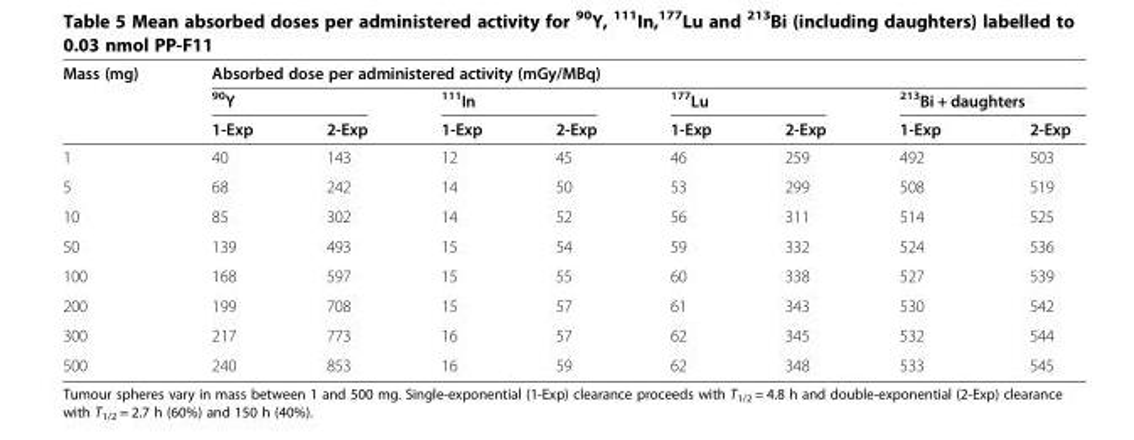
<table><thead><tr><td rowspan="3">Mass (mg)</td><td colspan="8">Absorbed dose per administered activity (mGy/MBq)</td></tr><tr><td colspan="2"><sup>90</sup>Y</td><td colspan="2"><sup>111</sup>In</td><td colspan="2"><sup>177</sup>Lu</td><td colspan="2"><sup>213</sup>Bi + daughters</td></tr><tr><td>1-Exp</td><td>2-Exp</td><td>1-Exp</td><td>2-Exp</td><td>1-Exp</td><td>2-Exp</td><td>1-Exp</td><td>2-Exp</td></tr></thead><tbody><tr><td>1</td><td>40</td><td>143</td><td>12</td><td>45</td><td>46</td><td>259</td><td>492</td><td>503</td></tr><tr><td>5</td><td>68</td><td>242</td><td>14</td><td>50</td><td>53</td><td>299</td><td>508</td><td>519</td></tr><tr><td>10</td><td>85</td><td>302</td><td>14</td><td>52</td><td>56</td><td>311</td><td>514</td><td>525</td></tr><tr><td>50</td><td>139</td><td>493</td><td>15</td><td>54</td><td>59</td><td>332</td><td>524</td><td>536</td></tr><tr><td>100</td><td>168</td><td>597</td><td>15</td><td>55</td><td>60</td><td>338</td><td>527</td><td>539</td></tr><tr><td>200</td><td>199</td><td>708</td><td>15</td><td>57</td><td>61</td><td>343</td><td>530</td><td>542</td></tr><tr><td>300</td><td>217</td><td>773</td><td>16</td><td>57</td><td>62</td><td>345</td><td>532</td><td>544</td></tr><tr><td>500</td><td>240</td><td>853</td><td>16</td><td>59</td><td>62</td><td>348</td><td>533</td><td>545</td></tr></tbody></table>